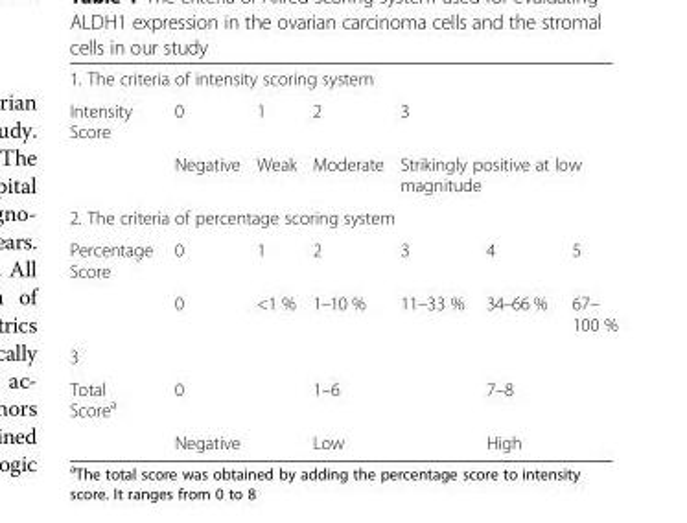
<table><tbody><tr><td colspan="7">1. The criteria of intensity scoring system</td></tr><tr><td rowspan="2">Intensity Score</td><td>0</td><td>1</td><td>2</td><td colspan="3">3</td></tr><tr><td>Negative</td><td>Weak</td><td>Moderate</td><td colspan="3">Strikingly positive at low magnitude</td></tr><tr><td colspan="7">2. The criteria of percentage scoring system</td></tr><tr><td rowspan="2">Percentage Score</td><td>0</td><td>1</td><td>2</td><td>3</td><td>4</td><td>5</td></tr><tr><td>0</td><td>&lt;1 %</td><td>1–10 %</td><td>11–33 %</td><td>34–66 %</td><td>67– 100 %</td></tr><tr><td colspan="7">3</td></tr><tr><td rowspan="2">Total Score<sup>a</sup></td><td colspan="2">0</td><td colspan="2">1–6</td><td colspan="2">7–8</td></tr><tr><td colspan="2">Negative</td><td colspan="2">Low</td><td colspan="2">High</td></tr></tbody></table>